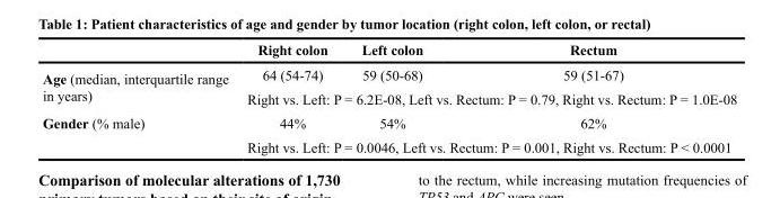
<table><thead><tr><td></td><td>Right colon</td><td>Left colon</td><td>Rectum</td></tr></thead><tbody><tr><td rowspan="2">Age (median, interquartile range in years)</td><td>64 (54-74)</td><td>59 (50-68)</td><td>59 (51-67)</td></tr><tr><td colspan="3">Right vs. Left: P = 6.2E-08, Left vs. Rectum: P = 0.79, Right vs. Rectum: P = 1.0E-08</td></tr><tr><td rowspan="2">Gender (% male)</td><td>44%</td><td>54%</td><td>62%</td></tr><tr><td colspan="3">Right vs. Left: P = 0.0046, Left vs. Rectum: P = 0.001, Right vs. Rectum: P &lt; 0.0001</td></tr></tbody></table>